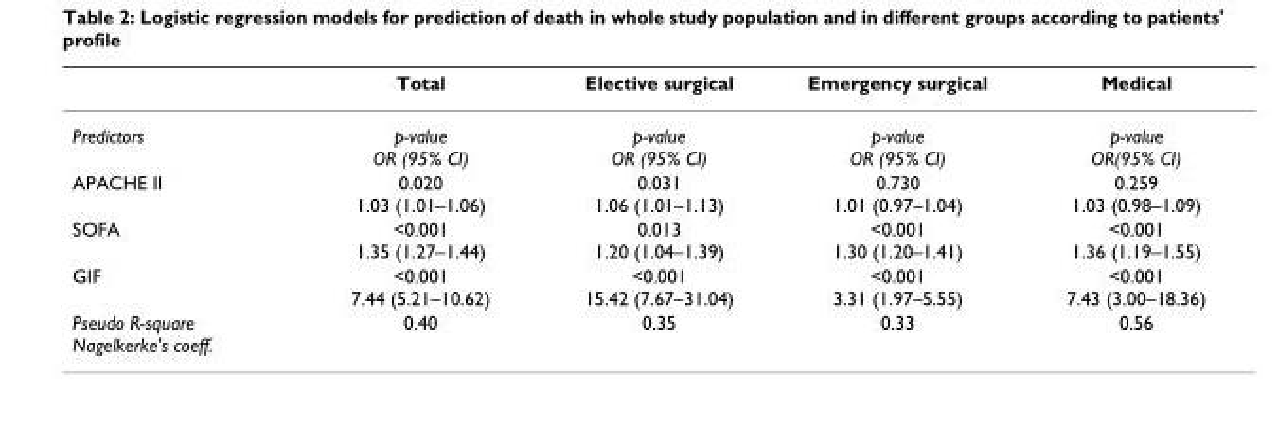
<table><thead><tr><td></td><td>Total</td><td>Elective surgical</td><td>Emergency surgical</td><td>Medical</td></tr></thead><tbody><tr><td>Predictors</td><td>p-value OR (95% CI)</td><td>p-value OR (95% CI)</td><td>p-value OR (95% CI)</td><td>p-value OR(95% CI)</td></tr><tr><td>APACHE II</td><td>0.020 1.03 (1.01–1.06)</td><td>0.031 1.06 (1.01–1.13)</td><td>0.730 1.01 (0.97–1.04)</td><td>0.259 1.03 (0.98–1.09)</td></tr><tr><td>SOFA</td><td>&lt;0.001 1.35 (1.27–1.44)</td><td>0.013 1.20 (1.04–1.39)</td><td>&lt;0.001 1.30 (1.20–1.41)</td><td>&lt;0.001 1.36 (1.19–1.55)</td></tr><tr><td>GIF</td><td>&lt;0.001 7.44 (5.21–10.62)</td><td>&lt;0.001 15.42 (7.67–31.04)</td><td>&lt;0.001 3.31 (1.97–5.55)</td><td>&lt;0.001 7.43 (3.00–18.36)</td></tr><tr><td>Pseudo R-square Nagelkerke&#x27;s coeff.</td><td>0.40</td><td>0.35</td><td>0.33</td><td>0.56</td></tr></tbody></table>